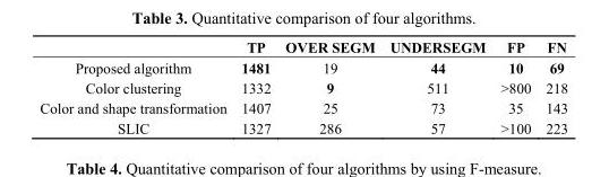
<table><thead><tr><td></td><td>TP</td><td>OVER SEGM</td><td>UNDERSEGM</td><td>FP</td><td>FN</td></tr></thead><tbody><tr><td>Proposed algorithm</td><td>1481</td><td>19</td><td>44</td><td>10</td><td>69</td></tr><tr><td>Color clustering</td><td>1332</td><td>9</td><td>511</td><td>&gt;800</td><td>218</td></tr><tr><td>Color and shape transformation</td><td>1407</td><td>25</td><td>73</td><td>35</td><td>143</td></tr><tr><td>SLIC</td><td>1327</td><td>286</td><td>57</td><td>&gt;100</td><td>223</td></tr></tbody></table>